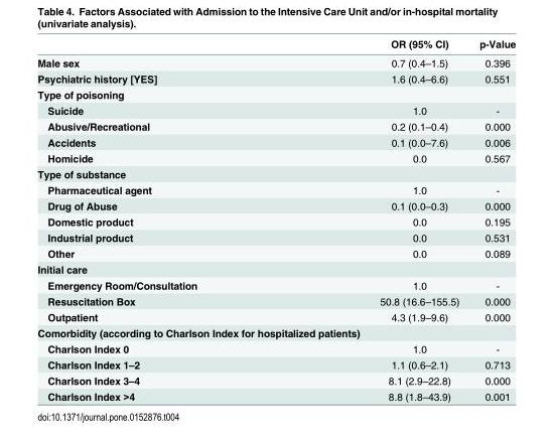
<table><thead><tr><td></td><td>OR (95% CI)</td><td>p-Value</td></tr></thead><tbody><tr><td>Male sex</td><td>0.7 (0.4–1.5)</td><td>0.396</td></tr><tr><td>Psychiatric history [YES]</td><td>1.6 (0.4–6.6)</td><td>0.551</td></tr><tr><td colspan="3">Type of poisoning</td></tr><tr><td>Suicide</td><td>1.0</td><td>-</td></tr><tr><td>Abusive/Recreational</td><td>0.2 (0.1–0.4)</td><td>0.000</td></tr><tr><td>Accidents</td><td>0.1 (0.0–7.6)</td><td>0.006</td></tr><tr><td>Homicide</td><td>0.0</td><td>0.567</td></tr><tr><td colspan="3">Type of substance</td></tr><tr><td>Pharmaceutical agent</td><td>1.0</td><td>-</td></tr><tr><td>Drug of Abuse</td><td>0.1 (0.0–0.3)</td><td>0.000</td></tr><tr><td>Domestic product</td><td>0.0</td><td>0.195</td></tr><tr><td>Industrial product</td><td>0.0</td><td>0.531</td></tr><tr><td>Other</td><td>0.0</td><td>0.089</td></tr><tr><td colspan="3">Initial care</td></tr><tr><td>Emergency Room/Consultation</td><td>1.0</td><td>-</td></tr><tr><td>Resuscitation Box</td><td>50.8 (16.6–155.5)</td><td>0.000</td></tr><tr><td>Outpatient</td><td>4.3 (1.9–9.6)</td><td>0.000</td></tr><tr><td colspan="3">Comorbidity (according to Charlson Index for hospitalized patients)</td></tr><tr><td>Charlson Index 0</td><td>1.0</td><td>-</td></tr><tr><td>Charlson Index 1–2</td><td>1.1 (0.6–2.1)</td><td>0.713</td></tr><tr><td>Charlson Index 3–4</td><td>8.1 (2.9–22.8)</td><td>0.000</td></tr><tr><td>Charlson Index &gt;4</td><td>8.8 (1.8–43.9)</td><td>0.001</td></tr></tbody></table>